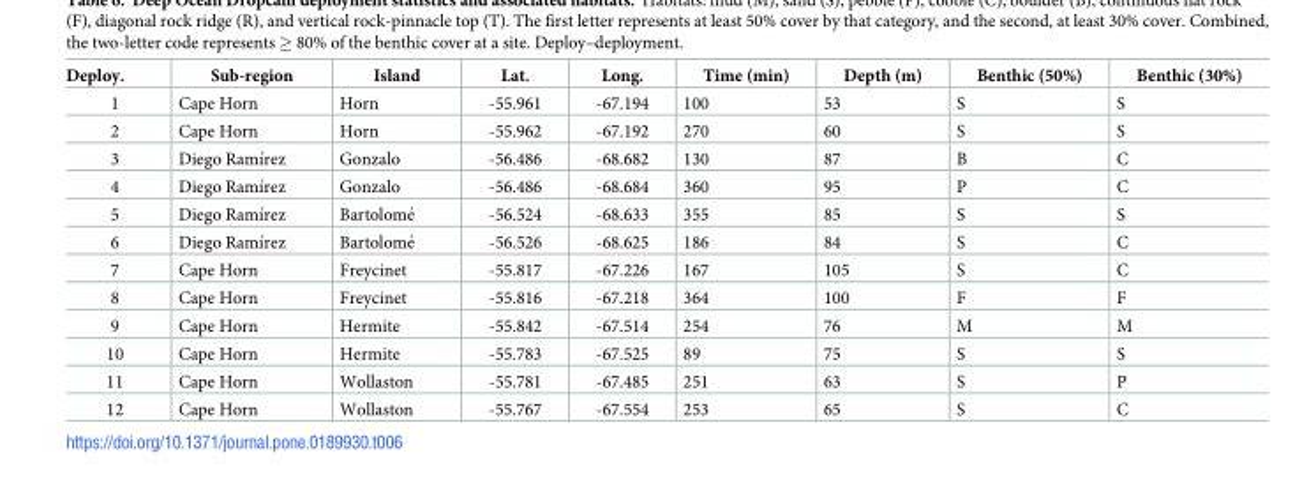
<table><thead><tr><td>Deploy.</td><td>Sub-region</td><td>Island</td><td>Lat.</td><td>Long.</td><td>Time (min)</td><td>Depth (m)</td><td>Benthic (50%)</td><td>Benthic (30%)</td></tr></thead><tbody><tr><td>1</td><td>Cape Horn</td><td>Horn</td><td>-55.961</td><td>-67.194</td><td>100</td><td>53</td><td>S</td><td>S</td></tr><tr><td>2</td><td>Cape Horn</td><td>Horn</td><td>-55.962</td><td>-67.192</td><td>270</td><td>60</td><td>S</td><td>S</td></tr><tr><td>3</td><td>Diego Ramı´rez</td><td>Gonzalo</td><td>-56.486</td><td>-68.682</td><td>130</td><td>87</td><td>B</td><td>C</td></tr><tr><td>4</td><td>Diego Ramı´rez</td><td>Gonzalo</td><td>-56.486</td><td>-68.684</td><td>360</td><td>95</td><td>P</td><td>C</td></tr><tr><td>5</td><td>Diego Ramı´rez</td><td>Bartolome´</td><td>-56.524</td><td>-68.633</td><td>355</td><td>85</td><td>S</td><td>S</td></tr><tr><td>6</td><td>Diego Ramı´rez</td><td>Bartolome´</td><td>-56.526</td><td>-68.625</td><td>186</td><td>84</td><td>S</td><td>C</td></tr><tr><td>7</td><td>Cape Horn</td><td>Freycinet</td><td>-55.817</td><td>-67.226</td><td>167</td><td>105</td><td>S</td><td>C</td></tr><tr><td>8</td><td>Cape Horn</td><td>Freycinet</td><td>-55.816</td><td>-67.218</td><td>364</td><td>100</td><td>F</td><td>F</td></tr><tr><td>9</td><td>Cape Horn</td><td>Hermite</td><td>-55.842</td><td>-67.514</td><td>254</td><td>76</td><td>M</td><td>M</td></tr><tr><td>10</td><td>Cape Horn</td><td>Hermite</td><td>-55.783</td><td>-67.525</td><td>89</td><td>75</td><td>S</td><td>S</td></tr><tr><td>11</td><td>Cape Horn</td><td>Wollaston</td><td>-55.781</td><td>-67.485</td><td>251</td><td>63</td><td>S</td><td>P</td></tr><tr><td>12</td><td>Cape Horn</td><td>Wollaston</td><td>-55.767</td><td>-67.554</td><td>253</td><td>65</td><td>S</td><td>C</td></tr></tbody></table>